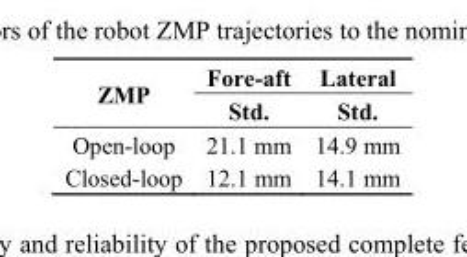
<table><thead><tr><td rowspan="2">ZMP</td><td rowspan="2">Fore-aft Std.</td><td rowspan="2">Lateral Std.</td></tr><tr></tr></thead><tbody><tr><td>Open-loop</td><td>21.1 mm</td><td>14.9 mm</td></tr><tr><td>Closed-loop</td><td>12.1 mm</td><td>14.1 mm</td></tr></tbody></table>